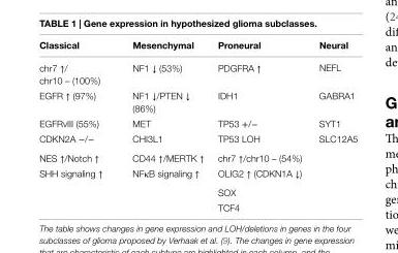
<table><thead><tr><td>Classical</td><td>Mesenchymal</td><td>Proneural</td><td>Neural</td></tr></thead><tbody><tr><td>chr7 ↑/ chr10 – (100%)</td><td>NF1 ↓ (53%)</td><td>PDGFRA ↑</td><td>NEFL</td></tr><tr><td>EGFR ↑ (97%)</td><td>NF1 ↓/PTEN ↓ (86%)</td><td>IDH1</td><td>GABRA1</td></tr><tr><td>EGFRvIII (55%)</td><td>MET</td><td>TP53 +/−</td><td>SYT1</td></tr><tr><td>CDKN2A −/−</td><td>CHI3L1</td><td>TP53 LOH</td><td>SLC12A5</td></tr><tr><td>NES ↑/Notch ↑</td><td>CD44 ↑/MERTK ↑</td><td>chr7 ↑/chr10 – (54%)</td><td></td></tr><tr><td rowspan="3">SHH signaling ↑</td><td>NFκB signaling ↑</td><td>OLIG2 ↑ (CDKN1A ↓)</td><td></td></tr><tr><td></td><td>SOX</td><td></td></tr><tr><td></td><td>TCF4</td><td></td></tr></tbody></table>